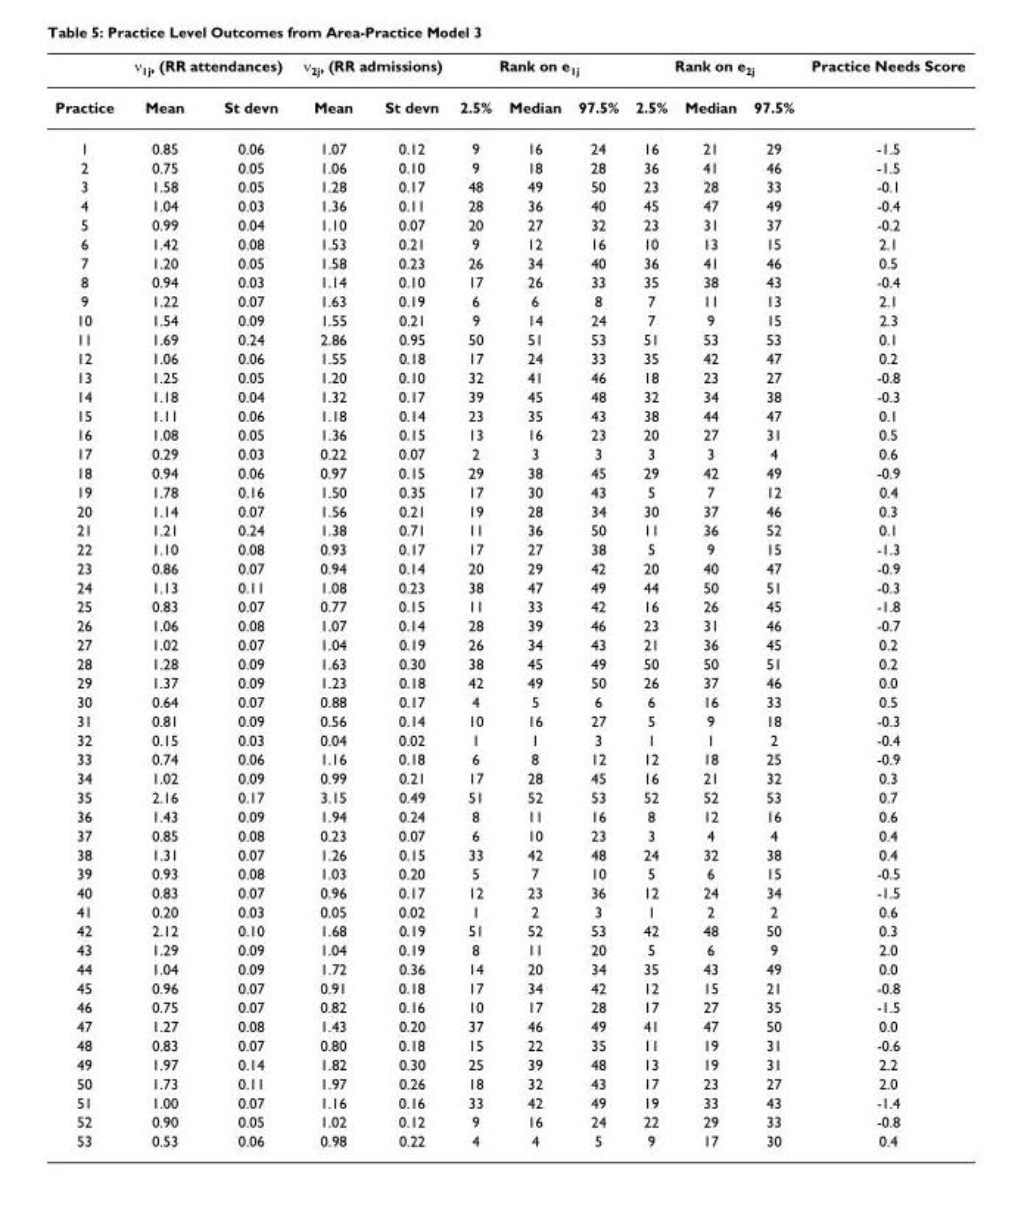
<table><thead><tr><td rowspan="2">Practice</td><td colspan="2">ν<sub>1j</sub>, (RR attendances)</td><td colspan="2">ν<sub>2j</sub>, (RR admissions)</td><td colspan="3">Rank on e<sub>1j</sub></td><td colspan="3">Rank on e<sub>2j</sub></td><td rowspan="2">Practice Needs Score</td></tr><tr><td>Mean</td><td>St devn</td><td>Mean</td><td>St devn</td><td>2.5%</td><td>Median</td><td>97.5%</td><td>2.5%</td><td>Median</td><td>97.5%</td></tr></thead><tbody><tr><td>1</td><td>0.85</td><td>0.06</td><td>1.07</td><td>0.12</td><td>9</td><td>16</td><td>24</td><td>16</td><td>21</td><td>29</td><td>-1.5</td></tr><tr><td>2</td><td>0.75</td><td>0.05</td><td>1.06</td><td>0.10</td><td>9</td><td>18</td><td>28</td><td>36</td><td>41</td><td>46</td><td>-1.5</td></tr><tr><td>3</td><td>1.58</td><td>0.05</td><td>1.28</td><td>0.17</td><td>48</td><td>49</td><td>50</td><td>23</td><td>28</td><td>33</td><td>-0.1</td></tr><tr><td>4</td><td>1.04</td><td>0.03</td><td>1.36</td><td>0.11</td><td>28</td><td>36</td><td>40</td><td>45</td><td>47</td><td>49</td><td>-0.4</td></tr><tr><td>5</td><td>0.99</td><td>0.04</td><td>1.10</td><td>0.07</td><td>20</td><td>27</td><td>32</td><td>23</td><td>31</td><td>37</td><td>-0.2</td></tr><tr><td>6</td><td>1.42</td><td>0.08</td><td>1.53</td><td>0.21</td><td>9</td><td>12</td><td>16</td><td>10</td><td>13</td><td>15</td><td>2.1</td></tr><tr><td>7</td><td>1.20</td><td>0.05</td><td>1.58</td><td>0.23</td><td>26</td><td>34</td><td>40</td><td>36</td><td>41</td><td>46</td><td>0.5</td></tr><tr><td>8</td><td>0.94</td><td>0.03</td><td>1.14</td><td>0.10</td><td>17</td><td>26</td><td>33</td><td>35</td><td>38</td><td>43</td><td>-0.4</td></tr><tr><td>9</td><td>1.22</td><td>0.07</td><td>1.63</td><td>0.19</td><td>6</td><td>6</td><td>8</td><td>7</td><td>11</td><td>13</td><td>2.1</td></tr><tr><td>10</td><td>1.54</td><td>0.09</td><td>1.55</td><td>0.21</td><td>9</td><td>14</td><td>24</td><td>7</td><td>9</td><td>15</td><td>2.3</td></tr><tr><td>11</td><td>1.69</td><td>0.24</td><td>2.86</td><td>0.95</td><td>50</td><td>51</td><td>53</td><td>51</td><td>53</td><td>53</td><td>0.1</td></tr><tr><td>12</td><td>1.06</td><td>0.06</td><td>1.55</td><td>0.18</td><td>17</td><td>24</td><td>33</td><td>35</td><td>42</td><td>47</td><td>0.2</td></tr><tr><td>13</td><td>1.25</td><td>0.05</td><td>1.20</td><td>0.10</td><td>32</td><td>41</td><td>46</td><td>18</td><td>23</td><td>27</td><td>-0.8</td></tr><tr><td>14</td><td>1.18</td><td>0.04</td><td>1.32</td><td>0.17</td><td>39</td><td>45</td><td>48</td><td>32</td><td>34</td><td>38</td><td>-0.3</td></tr><tr><td>15</td><td>1.11</td><td>0.06</td><td>1.18</td><td>0.14</td><td>23</td><td>35</td><td>43</td><td>38</td><td>44</td><td>47</td><td>0.1</td></tr><tr><td>16</td><td>1.08</td><td>0.05</td><td>1.36</td><td>0.15</td><td>13</td><td>16</td><td>23</td><td>20</td><td>27</td><td>31</td><td>0.5</td></tr><tr><td>17</td><td>0.29</td><td>0.03</td><td>0.22</td><td>0.07</td><td>2</td><td>3</td><td>3</td><td>3</td><td>3</td><td>4</td><td>0.6</td></tr><tr><td>18</td><td>0.94</td><td>0.06</td><td>0.97</td><td>0.15</td><td>29</td><td>38</td><td>45</td><td>29</td><td>42</td><td>49</td><td>-0.9</td></tr><tr><td>19</td><td>1.78</td><td>0.16</td><td>1.50</td><td>0.35</td><td>17</td><td>30</td><td>43</td><td>5</td><td>7</td><td>12</td><td>0.4</td></tr><tr><td>20</td><td>1.14</td><td>0.07</td><td>1.56</td><td>0.21</td><td>19</td><td>28</td><td>34</td><td>30</td><td>37</td><td>46</td><td>0.3</td></tr><tr><td>21</td><td>1.21</td><td>0.24</td><td>1.38</td><td>0.71</td><td>11</td><td>36</td><td>50</td><td>11</td><td>36</td><td>52</td><td>0.1</td></tr><tr><td>22</td><td>1.10</td><td>0.08</td><td>0.93</td><td>0.17</td><td>17</td><td>27</td><td>38</td><td>5</td><td>9</td><td>15</td><td>-1.3</td></tr><tr><td>23</td><td>0.86</td><td>0.07</td><td>0.94</td><td>0.14</td><td>20</td><td>29</td><td>42</td><td>20</td><td>40</td><td>47</td><td>-0.9</td></tr><tr><td>24</td><td>1.13</td><td>0.11</td><td>1.08</td><td>0.23</td><td>38</td><td>47</td><td>49</td><td>44</td><td>50</td><td>51</td><td>-0.3</td></tr><tr><td>25</td><td>0.83</td><td>0.07</td><td>0.77</td><td>0.15</td><td>11</td><td>33</td><td>42</td><td>16</td><td>26</td><td>45</td><td>-1.8</td></tr><tr><td>26</td><td>1.06</td><td>0.08</td><td>1.07</td><td>0.14</td><td>28</td><td>39</td><td>46</td><td>23</td><td>31</td><td>46</td><td>-0.7</td></tr><tr><td>27</td><td>1.02</td><td>0.07</td><td>1.04</td><td>0.19</td><td>26</td><td>34</td><td>43</td><td>21</td><td>36</td><td>45</td><td>0.2</td></tr><tr><td>28</td><td>1.28</td><td>0.09</td><td>1.63</td><td>0.30</td><td>38</td><td>45</td><td>49</td><td>50</td><td>50</td><td>51</td><td>0.2</td></tr><tr><td>29</td><td>1.37</td><td>0.09</td><td>1.23</td><td>0.18</td><td>42</td><td>49</td><td>50</td><td>26</td><td>37</td><td>46</td><td>0.0</td></tr><tr><td>30</td><td>0.64</td><td>0.07</td><td>0.88</td><td>0.17</td><td>4</td><td>5</td><td>6</td><td>6</td><td>16</td><td>33</td><td>0.5</td></tr><tr><td>31</td><td>0.81</td><td>0.09</td><td>0.56</td><td>0.14</td><td>10</td><td>16</td><td>27</td><td>5</td><td>9</td><td>18</td><td>-0.3</td></tr><tr><td>32</td><td>0.15</td><td>0.03</td><td>0.04</td><td>0.02</td><td>1</td><td>1</td><td>3</td><td>1</td><td>1</td><td>2</td><td>-0.4</td></tr><tr><td>33</td><td>0.74</td><td>0.06</td><td>1.16</td><td>0.18</td><td>6</td><td>8</td><td>12</td><td>12</td><td>18</td><td>25</td><td>-0.9</td></tr><tr><td>34</td><td>1.02</td><td>0.09</td><td>0.99</td><td>0.21</td><td>17</td><td>28</td><td>45</td><td>16</td><td>21</td><td>32</td><td>0.3</td></tr><tr><td>35</td><td>2.16</td><td>0.17</td><td>3.15</td><td>0.49</td><td>51</td><td>52</td><td>53</td><td>52</td><td>52</td><td>53</td><td>0.7</td></tr><tr><td>36</td><td>1.43</td><td>0.09</td><td>1.94</td><td>0.24</td><td>8</td><td>11</td><td>16</td><td>8</td><td>12</td><td>16</td><td>0.6</td></tr><tr><td>37</td><td>0.85</td><td>0.08</td><td>0.23</td><td>0.07</td><td>6</td><td>10</td><td>23</td><td>3</td><td>4</td><td>4</td><td>0.4</td></tr><tr><td>38</td><td>1.31</td><td>0.07</td><td>1.26</td><td>0.15</td><td>33</td><td>42</td><td>48</td><td>24</td><td>32</td><td>38</td><td>0.4</td></tr><tr><td>39</td><td>0.93</td><td>0.08</td><td>1.03</td><td>0.20</td><td>5</td><td>7</td><td>10</td><td>5</td><td>6</td><td>15</td><td>-0.5</td></tr><tr><td>40</td><td>0.83</td><td>0.07</td><td>0.96</td><td>0.17</td><td>12</td><td>23</td><td>36</td><td>12</td><td>24</td><td>34</td><td>-1.5</td></tr><tr><td>41</td><td>0.20</td><td>0.03</td><td>0.05</td><td>0.02</td><td>1</td><td>2</td><td>3</td><td>1</td><td>2</td><td>2</td><td>0.6</td></tr><tr><td>42</td><td>2.12</td><td>0.10</td><td>1.68</td><td>0.19</td><td>51</td><td>52</td><td>53</td><td>42</td><td>48</td><td>50</td><td>0.3</td></tr><tr><td>43</td><td>1.29</td><td>0.09</td><td>1.04</td><td>0.19</td><td>8</td><td>11</td><td>20</td><td>5</td><td>6</td><td>9</td><td>2.0</td></tr><tr><td>44</td><td>1.04</td><td>0.09</td><td>1.72</td><td>0.36</td><td>14</td><td>20</td><td>34</td><td>35</td><td>43</td><td>49</td><td>0.0</td></tr><tr><td>45</td><td>0.96</td><td>0.07</td><td>0.91</td><td>0.18</td><td>17</td><td>34</td><td>42</td><td>12</td><td>15</td><td>21</td><td>-0.8</td></tr><tr><td>46</td><td>0.75</td><td>0.07</td><td>0.82</td><td>0.16</td><td>10</td><td>17</td><td>28</td><td>17</td><td>27</td><td>35</td><td>-1.5</td></tr><tr><td>47</td><td>1.27</td><td>0.08</td><td>1.43</td><td>0.20</td><td>37</td><td>46</td><td>49</td><td>41</td><td>47</td><td>50</td><td>0.0</td></tr><tr><td>48</td><td>0.83</td><td>0.07</td><td>0.80</td><td>0.18</td><td>15</td><td>22</td><td>35</td><td>11</td><td>19</td><td>31</td><td>-0.6</td></tr><tr><td>49</td><td>1.97</td><td>0.14</td><td>1.82</td><td>0.30</td><td>25</td><td>39</td><td>48</td><td>13</td><td>19</td><td>31</td><td>2.2</td></tr><tr><td>50</td><td>1.73</td><td>0.11</td><td>1.97</td><td>0.26</td><td>18</td><td>32</td><td>43</td><td>17</td><td>23</td><td>27</td><td>2.0</td></tr><tr><td>51</td><td>1.00</td><td>0.07</td><td>1.16</td><td>0.16</td><td>33</td><td>42</td><td>49</td><td>19</td><td>33</td><td>43</td><td>-1.4</td></tr><tr><td>52</td><td>0.90</td><td>0.05</td><td>1.02</td><td>0.12</td><td>9</td><td>16</td><td>24</td><td>22</td><td>29</td><td>33</td><td>-0.8</td></tr><tr><td>53</td><td>0.53</td><td>0.06</td><td>0.98</td><td>0.22</td><td>4</td><td>4</td><td>5</td><td>9</td><td>17</td><td>30</td><td>0.4</td></tr></tbody></table>